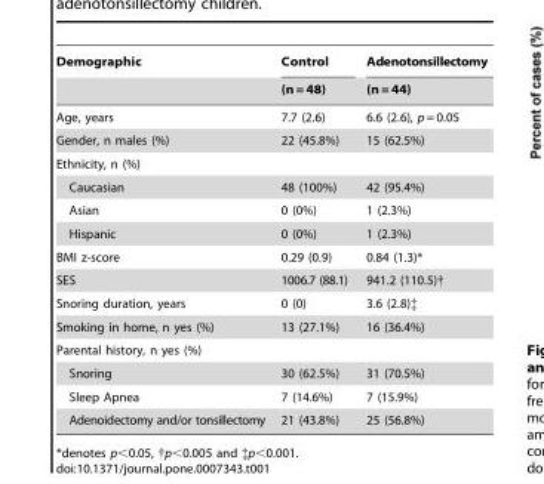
<table><thead><tr><td rowspan="2">Demographic</td><td rowspan="2">Control (n = 48)</td><td rowspan="2">Adenotonsillectomy (n = 44)</td></tr><tr></tr></thead><tbody><tr><td>Age, years</td><td>7.7 (2.6)</td><td>6.6 (2.6), p = 0.05</td></tr><tr><td>Gender, n males (%)</td><td>22 (45.8%)</td><td>15 (62.5%)</td></tr><tr><td colspan="3">Ethnicity, n (%)</td></tr><tr><td>Caucasian</td><td>48 (100%)</td><td>42 (95.4%)</td></tr><tr><td>Asian</td><td>0 (0%)</td><td>1 (2.3%)</td></tr><tr><td>Hispanic</td><td>0 (0%)</td><td>1 (2.3%)</td></tr><tr><td>BMI z-score</td><td>0.29 (0.9)</td><td>0.84 (1.3)*</td></tr><tr><td>SES</td><td>1006.7 (88.1)</td><td>941.2 (110.5)†</td></tr><tr><td>Snoring duration, years</td><td>0 (0)</td><td>3.6 (2.8)‡</td></tr><tr><td>Smoking in home, n yes (%)</td><td>13 (27.1%)</td><td>16 (36.4%)</td></tr><tr><td colspan="3">Parental history, n yes (%)</td></tr><tr><td>Snoring</td><td>30 (62.5%)</td><td>31 (70.5%)</td></tr><tr><td>Sleep Apnea</td><td>7 (14.6%)</td><td>7 (15.9%)</td></tr><tr><td>Adenoidectomy and/or tonsillectomy</td><td>21 (43.8%)</td><td>25 (56.8%)</td></tr></tbody></table>